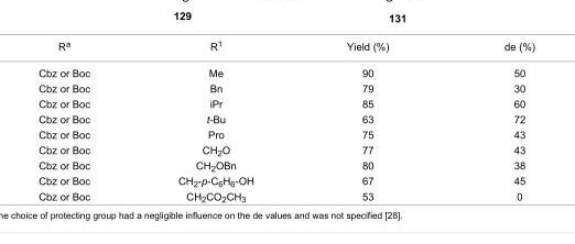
<table><tbody><tr><td>R<sup>a</sup></td><td>R<sup>1</sup></td><td>Yield (%)</td><td>de (%)</td></tr><tr><td>Cbz or Boc</td><td>Me</td><td>90</td><td>50</td></tr><tr><td>Cbz or Boc</td><td>Bn</td><td>79</td><td>30</td></tr><tr><td>Cbz or Boc</td><td>iPr</td><td>85</td><td>60</td></tr><tr><td>Cbz or Boc</td><td>t-Bu</td><td>63</td><td>72</td></tr><tr><td>Cbz or Boc</td><td>Pro</td><td>75</td><td>43</td></tr><tr><td>Cbz or Boc</td><td>CH<sub>2</sub>O</td><td>77</td><td>43</td></tr><tr><td>Cbz or Boc</td><td>CH<sub>2</sub>OBn</td><td>80</td><td>38</td></tr><tr><td>Cbz or Boc</td><td>CH<sub>2</sub>-p-C<sub>6</sub>H<sub>6</sub>-OH</td><td>67</td><td>45</td></tr><tr><td>Cbz or Boc</td><td>CH<sub>2</sub>CO<sub>2</sub>CH<sub>3</sub></td><td>53</td><td>0</td></tr></tbody></table>